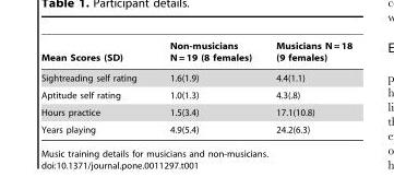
<table><thead><tr><td>Mean Scores (SD)</td><td>Non-musicians N = 19 (8 females)</td><td>Musicians N = 18 (9 females)</td></tr></thead><tbody><tr><td>Sightreading self rating</td><td>1.6(1.9)</td><td>4.4(1.1)</td></tr><tr><td>Aptitude self rating</td><td>1.0(1.3)</td><td>4.3(.8)</td></tr><tr><td>Hours practice</td><td>1.5(3.4)</td><td>17.1(10.8)</td></tr><tr><td>Years playing</td><td>4.9(5.4)</td><td>24.2(6.3)</td></tr></tbody></table>